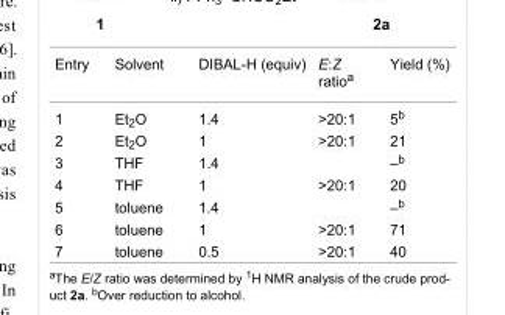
<table><tbody><tr><td>Entry</td><td>Solvent</td><td>DIBAL-H (equiv)</td><td>E:Z ratio<sup>a</sup></td><td>Yield (%)</td></tr><tr><td>1</td><td>Et<sub>2</sub>O</td><td>1.4</td><td>&gt;20:1</td><td>5<sup>b</sup></td></tr><tr><td>2</td><td>Et<sub>2</sub>O</td><td>1</td><td>&gt;20:1</td><td>21</td></tr><tr><td>3</td><td>THF</td><td>1.4</td><td></td><td>–<sup>b</sup></td></tr><tr><td>4</td><td>THF</td><td>1</td><td>&gt;20:1</td><td>20</td></tr><tr><td>5</td><td>toluene</td><td>1.4</td><td></td><td>–<sup>b</sup></td></tr><tr><td>6</td><td>toluene</td><td>1</td><td>&gt;20:1</td><td>71</td></tr><tr><td>7</td><td>toluene</td><td>0.5</td><td>&gt;20:1</td><td>40</td></tr></tbody></table>